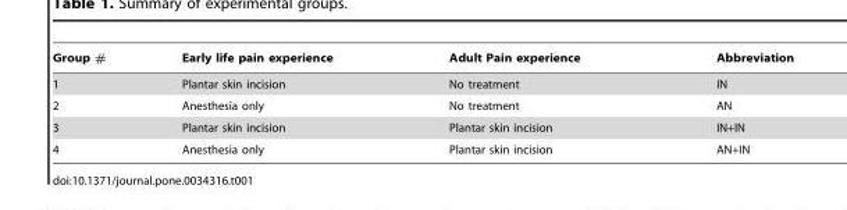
<table><thead><tr><td>Group #</td><td>Early life pain experience</td><td>Adult Pain experience</td><td>Abbreviation</td></tr></thead><tbody><tr><td>1</td><td>Plantar skin incision</td><td>No treatment</td><td>IN</td></tr><tr><td>2</td><td>Anesthesia only</td><td>No treatment</td><td>AN</td></tr><tr><td>3</td><td>Plantar skin incision</td><td>Plantar skin incision</td><td>IN+IN</td></tr><tr><td>4</td><td>Anesthesia only</td><td>Plantar skin incision</td><td>AN+IN</td></tr></tbody></table>